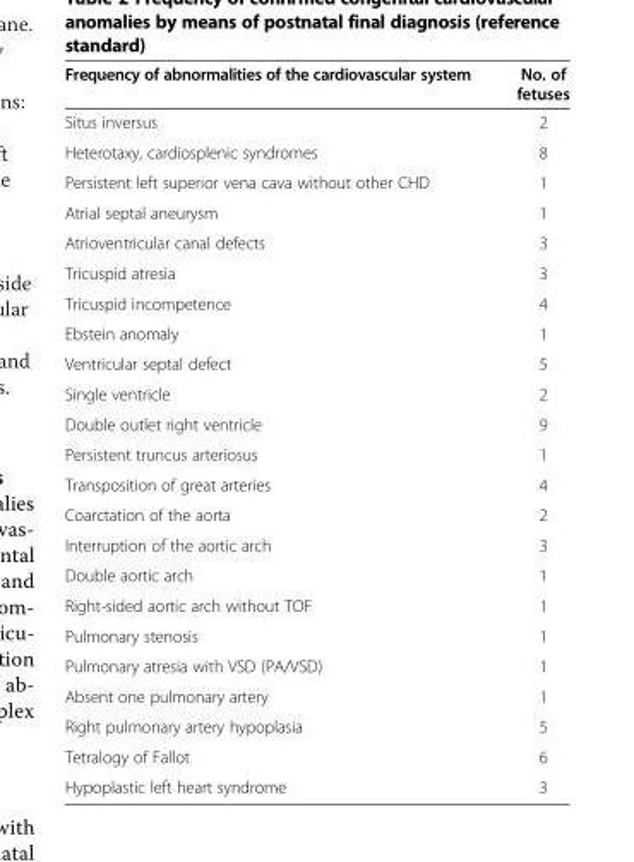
<table><thead><tr><td>Frequency of abnormalities of the cardiovascular system</td><td>No. of fetuses</td></tr></thead><tbody><tr><td>Situs inversus</td><td>2</td></tr><tr><td>Heterotaxy, cardiosplenic syndromes</td><td>8</td></tr><tr><td>Persistent left superior vena cava without other CHD</td><td>1</td></tr><tr><td>Atrial septal aneurysm</td><td>1</td></tr><tr><td>Atrioventricular canal defects</td><td>3</td></tr><tr><td>Tricuspid atresia</td><td>3</td></tr><tr><td>Tricuspid incompetence</td><td>4</td></tr><tr><td>Ebstein anomaly</td><td>1</td></tr><tr><td>Ventricular septal defect</td><td>5</td></tr><tr><td>Single ventricle</td><td>2</td></tr><tr><td>Double outlet right ventricle</td><td>9</td></tr><tr><td>Persistent truncus arteriosus</td><td>1</td></tr><tr><td>Transposition of great arteries</td><td>4</td></tr><tr><td>Coarctation of the aorta</td><td>2</td></tr><tr><td>Interruption of the aortic arch</td><td>3</td></tr><tr><td>Double aortic arch</td><td>1</td></tr><tr><td>Right-sided aortic arch without TOF</td><td>1</td></tr><tr><td>Pulmonary stenosis</td><td>1</td></tr><tr><td>Pulmonary atresia with VSD (PA/VSD)</td><td>1</td></tr><tr><td>Absent one pulmonary artery</td><td>1</td></tr><tr><td>Right pulmonary artery hypoplasia</td><td>5</td></tr><tr><td>Tetralogy of Fallot</td><td>6</td></tr><tr><td>Hypoplastic left heart syndrome</td><td>3</td></tr></tbody></table>